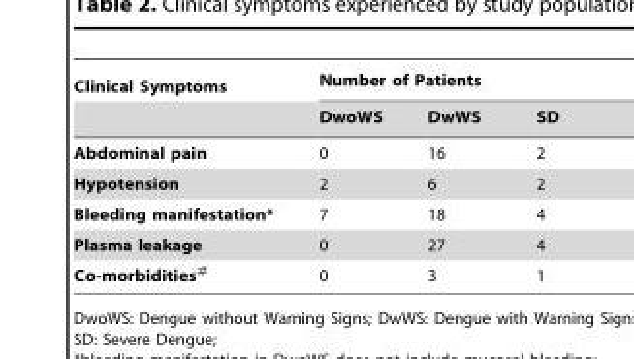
<table><thead><tr><td rowspan="2">Clinical Symptoms</td><td colspan="3">Number of Patients</td></tr><tr><td>DwoWS</td><td>DwWS</td><td>SD</td></tr></thead><tbody><tr><td>Abdominal pain</td><td>0</td><td>16</td><td>2</td></tr><tr><td>Hypotension</td><td>2</td><td>6</td><td>2</td></tr><tr><td>Bleeding manifestation*</td><td>7</td><td>18</td><td>4</td></tr><tr><td>Plasma leakage</td><td>0</td><td>27</td><td>4</td></tr><tr><td>Co-morbidities#</td><td>0</td><td>3</td><td>1</td></tr></tbody></table>